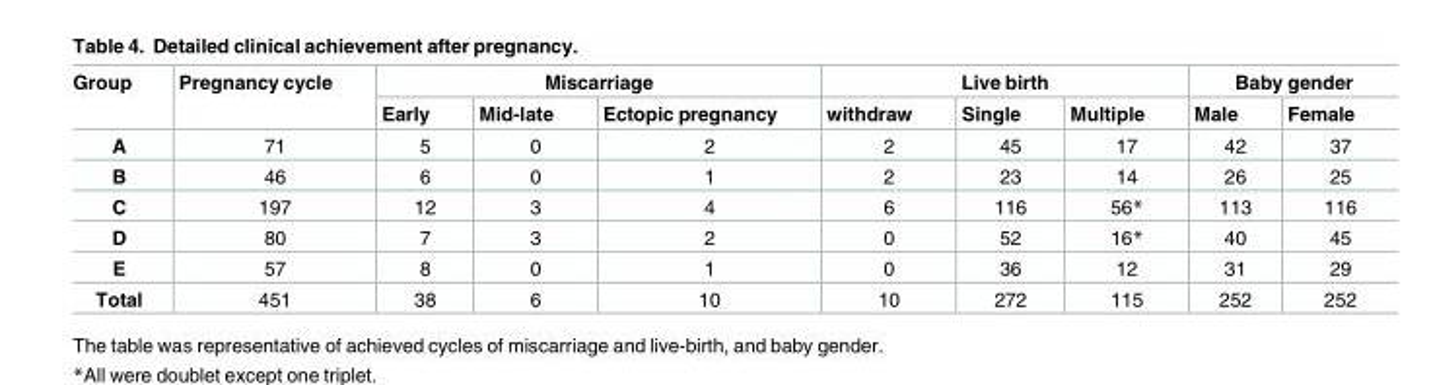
<table><thead><tr><td rowspan="2">Group</td><td rowspan="2">Pregnancy cycle</td><td colspan="3">Miscarriage</td><td colspan="3">Live birth</td><td colspan="2">Baby gender</td></tr><tr><td>Early</td><td>Mid-late</td><td>Ectopic pregnancy</td><td>withdraw</td><td>Single</td><td>Multiple</td><td>Male</td><td>Female</td></tr></thead><tbody><tr><td>A</td><td>71</td><td>5</td><td>0</td><td>2</td><td>2</td><td>45</td><td>17</td><td>42</td><td>37</td></tr><tr><td>B</td><td>46</td><td>6</td><td>0</td><td>1</td><td>2</td><td>23</td><td>14</td><td>26</td><td>25</td></tr><tr><td>C</td><td>197</td><td>12</td><td>3</td><td>4</td><td>6</td><td>116</td><td>56*</td><td>113</td><td>116</td></tr><tr><td>D</td><td>80</td><td>7</td><td>3</td><td>2</td><td>0</td><td>52</td><td>16*</td><td>40</td><td>45</td></tr><tr><td>E</td><td>57</td><td>8</td><td>0</td><td>1</td><td>0</td><td>36</td><td>12</td><td>31</td><td>29</td></tr><tr><td>Total</td><td>451</td><td>38</td><td>6</td><td>10</td><td>10</td><td>272</td><td>115</td><td>252</td><td>252</td></tr></tbody></table>